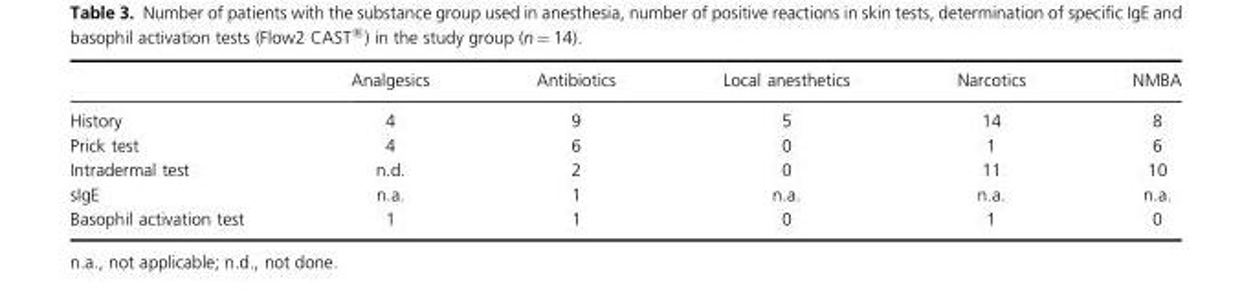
<table><thead><tr><td></td><td>Analgesics</td><td>Antibiotics</td><td>Local anesthetics</td><td>Narcotics</td><td>NMBA</td></tr></thead><tbody><tr><td>History</td><td>4</td><td>9</td><td>5</td><td>14</td><td>8</td></tr><tr><td>Prick test</td><td>4</td><td>6</td><td>0</td><td>1</td><td>6</td></tr><tr><td>Intradermal test</td><td>n.d.</td><td>2</td><td>0</td><td>11</td><td>10</td></tr><tr><td>sIgE</td><td>n.a.</td><td>1</td><td>n.a.</td><td>n.a.</td><td>n.a.</td></tr><tr><td>Basophil activation test</td><td>1</td><td>1</td><td>0</td><td>1</td><td>0</td></tr></tbody></table>